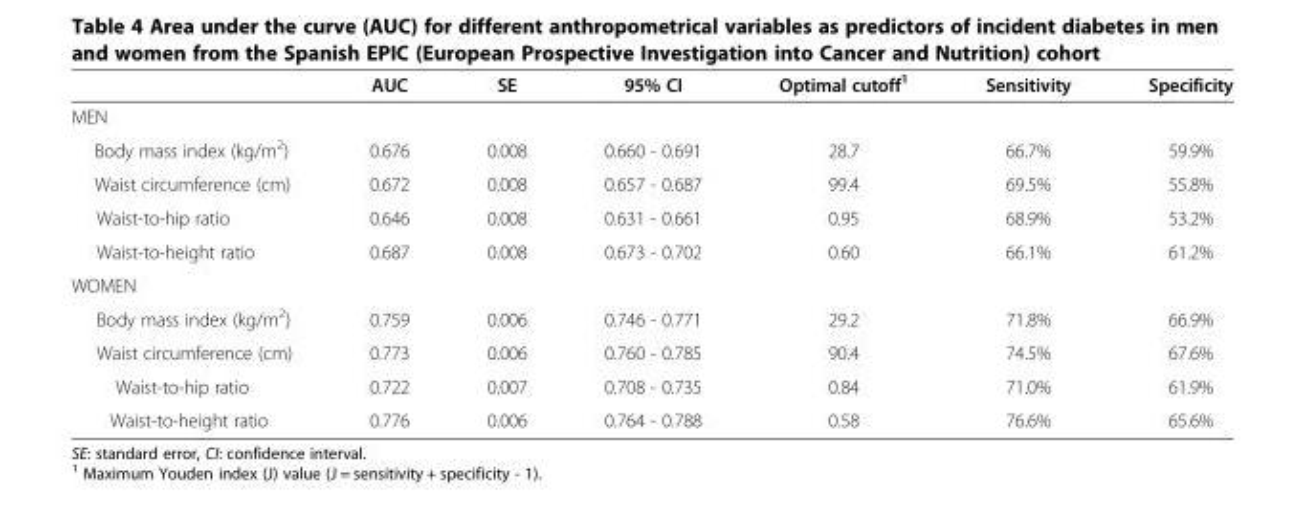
<table><thead><tr><td></td><td>AUC</td><td>SE</td><td>95% CI</td><td>Optimal cutoff<sup>1</sup></td><td>Sensitivity</td><td>Specificity</td></tr></thead><tbody><tr><td colspan="7">MEN</td></tr><tr><td>Body mass index (kg/m<sup>2</sup>)</td><td>0.676</td><td>0.008</td><td>0.660 - 0.691</td><td>28.7</td><td>66.7%</td><td>59.9%</td></tr><tr><td>Waist circumference (cm)</td><td>0.672</td><td>0.008</td><td>0.657 - 0.687</td><td>99.4</td><td>69.5%</td><td>55.8%</td></tr><tr><td>Waist-to-hip ratio</td><td>0.646</td><td>0.008</td><td>0.631 - 0.661</td><td>0.95</td><td>68.9%</td><td>53.2%</td></tr><tr><td>Waist-to-height ratio</td><td>0.687</td><td>0.008</td><td>0.673 - 0.702</td><td>0.60</td><td>66.1%</td><td>61.2%</td></tr><tr><td colspan="7">WOMEN</td></tr><tr><td>Body mass index (kg/m<sup>2</sup>)</td><td>0.759</td><td>0.006</td><td>0.746 - 0.771</td><td>29.2</td><td>71.8%</td><td>66.9%</td></tr><tr><td>Waist circumference (cm)</td><td>0.773</td><td>0.006</td><td>0.760 - 0.785</td><td>90.4</td><td>74.5%</td><td>67.6%</td></tr><tr><td>Waist-to-hip ratio</td><td>0.722</td><td>0.007</td><td>0.708 - 0.735</td><td>0.84</td><td>71.0%</td><td>61.9%</td></tr><tr><td>Waist-to-height ratio</td><td>0.776</td><td>0.006</td><td>0.764 - 0.788</td><td>0.58</td><td>76.6%</td><td>65.6%</td></tr></tbody></table>